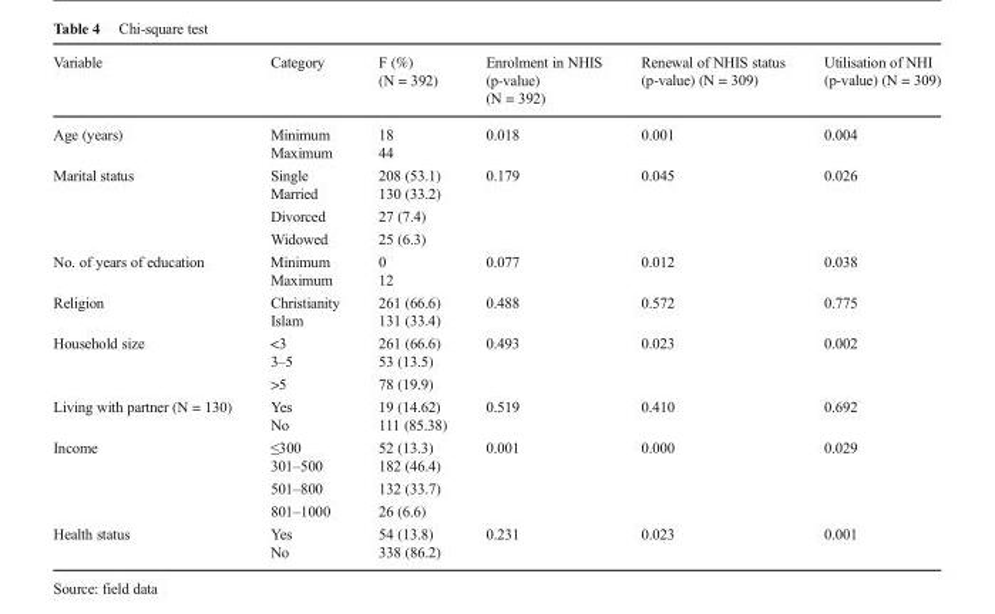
<table><thead><tr><td>Variable</td><td>Category</td><td>F (%) (N = 392)</td><td>Enrolment in NHIS (p-value) (N = 392)</td><td>Renewal of NHIS status (p-value) (N = 309)</td><td>Utilisation of NHI (p-value) (N = 309)</td></tr></thead><tbody><tr><td rowspan="2">Age (years)</td><td>Minimum</td><td>18</td><td rowspan="2">0.018</td><td rowspan="2">0.001</td><td rowspan="2">0.004</td></tr><tr><td>Maximum</td><td>44</td></tr><tr><td rowspan="4">Marital status</td><td>Single</td><td>208 (53.1)</td><td rowspan="4">0.179</td><td rowspan="4">0.045</td><td rowspan="4">0.026</td></tr><tr><td>Married</td><td>130 (33.2)</td></tr><tr><td>Divorced</td><td>27 (7.4)</td></tr><tr><td>Widowed</td><td>25 (6.3)</td></tr><tr><td rowspan="2">No. of years of education</td><td>Minimum</td><td>0</td><td rowspan="2">0.077</td><td rowspan="2">0.012</td><td rowspan="2">0.038</td></tr><tr><td>Maximum</td><td>12</td></tr><tr><td rowspan="2">Religion</td><td>Christianity</td><td>261 (66.6)</td><td rowspan="2">0.488</td><td rowspan="2">0.572</td><td rowspan="2">0.775</td></tr><tr><td>Islam</td><td>131 (33.4)</td></tr><tr><td rowspan="3">Household size</td><td>&lt;3</td><td>261 (66.6)</td><td rowspan="3">0.493</td><td rowspan="3">0.023</td><td rowspan="3">0.002</td></tr><tr><td>3–5</td><td>53 (13.5)</td></tr><tr><td>&gt;5</td><td>78 (19.9)</td></tr><tr><td rowspan="2">Living with partner (N = 130)</td><td>Yes</td><td>19 (14.62)</td><td rowspan="2">0.519</td><td rowspan="2">0.410</td><td rowspan="2">0.692</td></tr><tr><td>No</td><td>111 (85.38)</td></tr><tr><td rowspan="4">Income</td><td>≤300</td><td>52 (13.3)</td><td rowspan="4">0.001</td><td rowspan="4">0.000</td><td rowspan="4">0.029</td></tr><tr><td>301–500</td><td>182 (46.4)</td></tr><tr><td>501–800</td><td>132 (33.7)</td></tr><tr><td>801–1000</td><td>26 (6.6)</td></tr><tr><td rowspan="2">Health status</td><td>Yes</td><td>54 (13.8)</td><td rowspan="2">0.231</td><td rowspan="2">0.023</td><td rowspan="2">0.001</td></tr><tr><td>No</td><td>338 (86.2)</td></tr></tbody></table>